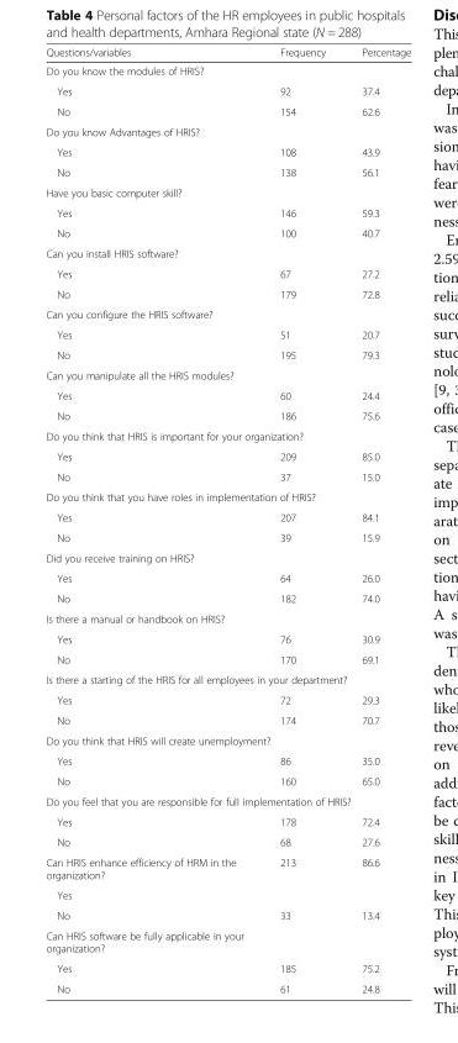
<table><thead><tr><td>Questions/variables</td><td>Frequency</td><td>Percentage</td></tr></thead><tbody><tr><td colspan="3">Do you know the modules of HRIS?</td></tr><tr><td>Yes</td><td>92</td><td>37.4</td></tr><tr><td>No</td><td>154</td><td>62.6</td></tr><tr><td colspan="3">Do you know Advantages of HRIS?</td></tr><tr><td>Yes</td><td>108</td><td>43.9</td></tr><tr><td>No</td><td>138</td><td>56.1</td></tr><tr><td colspan="3">Have you basic computer skill?</td></tr><tr><td>Yes</td><td>146</td><td>59.3</td></tr><tr><td>No</td><td>100</td><td>40.7</td></tr><tr><td colspan="3">Can you install HRIS software?</td></tr><tr><td>Yes</td><td>67</td><td>27.2</td></tr><tr><td>No</td><td>179</td><td>72.8</td></tr><tr><td colspan="3">Can you configure the HRIS software?</td></tr><tr><td>Yes</td><td>51</td><td>20.7</td></tr><tr><td>No</td><td>195</td><td>79.3</td></tr><tr><td colspan="3">Can you manipulate all the HRIS modules?</td></tr><tr><td>Yes</td><td>60</td><td>24.4</td></tr><tr><td>No</td><td>186</td><td>75.6</td></tr><tr><td colspan="3">Do you think that HRIS is important for your organization?</td></tr><tr><td>Yes</td><td>209</td><td>85.0</td></tr><tr><td>No</td><td>37</td><td>15.0</td></tr><tr><td colspan="3">Do you think that you have roles in implementation of HRIS?</td></tr><tr><td>Yes</td><td>207</td><td>84.1</td></tr><tr><td>No</td><td>39</td><td>15.9</td></tr><tr><td colspan="3">Did you receive training on HRIS?</td></tr><tr><td>Yes</td><td>64</td><td>26.0</td></tr><tr><td>No</td><td>182</td><td>74.0</td></tr><tr><td colspan="3">Is there a manual or handbook on HRIS?</td></tr><tr><td>Yes</td><td>76</td><td>30.9</td></tr><tr><td>No</td><td>170</td><td>69.1</td></tr><tr><td colspan="3">Is there a starting of the HRIS for all employees in your department?</td></tr><tr><td>Yes</td><td>72</td><td>29.3</td></tr><tr><td>No</td><td>174</td><td>70.7</td></tr><tr><td colspan="3">Do you think that HRIS will create unemployment?</td></tr><tr><td>Yes</td><td>86</td><td>35.0</td></tr><tr><td>No</td><td>160</td><td>65.0</td></tr><tr><td colspan="3">Do you feel that you are responsible for full implementation of HRIS?</td></tr><tr><td>Yes</td><td>178</td><td>72.4</td></tr><tr><td>No</td><td>68</td><td>27.6</td></tr><tr><td>Can HRIS enhance efficiency of HRM in the organization?</td><td>213</td><td>86.6</td></tr><tr><td colspan="3">Yes</td></tr><tr><td>No</td><td>33</td><td>13.4</td></tr><tr><td colspan="3">Can HRIS software be fully applicable in your organization?</td></tr><tr><td>Yes</td><td>185</td><td>75.2</td></tr><tr><td>No</td><td>61</td><td>24.8</td></tr></tbody></table>